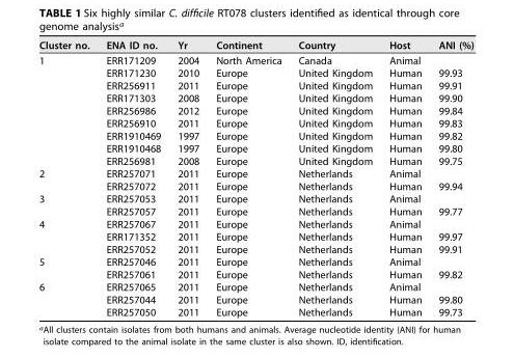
<table><thead><tr><td>Cluster no.</td><td>ENA ID no.</td><td>Yr</td><td>Continent</td><td>Country</td><td>Host</td><td>ANI (%)</td></tr></thead><tbody><tr><td rowspan="9">1</td><td>ERR171209</td><td>2004</td><td>North America</td><td>Canada</td><td>Animal</td><td></td></tr><tr><td>ERR171230</td><td>2010</td><td>Europe</td><td>United Kingdom</td><td>Human</td><td>99.93</td></tr><tr><td>ERR256911</td><td>2011</td><td>Europe</td><td>United Kingdom</td><td>Human</td><td>99.91</td></tr><tr><td>ERR171303</td><td>2008</td><td>Europe</td><td>United Kingdom</td><td>Human</td><td>99.90</td></tr><tr><td>ERR256986</td><td>2012</td><td>Europe</td><td>United Kingdom</td><td>Human</td><td>99.84</td></tr><tr><td>ERR256910</td><td>2011</td><td>Europe</td><td>United Kingdom</td><td>Human</td><td>99.83</td></tr><tr><td>ERR1910469</td><td>1997</td><td>Europe</td><td>United Kingdom</td><td>Human</td><td>99.82</td></tr><tr><td>ERR1910468</td><td>1997</td><td>Europe</td><td>United Kingdom</td><td>Human</td><td>99.80</td></tr><tr><td>ERR256981</td><td>2008</td><td>Europe</td><td>United Kingdom</td><td>Human</td><td>99.75</td></tr><tr><td rowspan="2">2</td><td>ERR257071</td><td>2011</td><td>Europe</td><td>Netherlands</td><td>Animal</td><td></td></tr><tr><td>ERR257072</td><td>2011</td><td>Europe</td><td>Netherlands</td><td>Human</td><td>99.94</td></tr><tr><td rowspan="2">3</td><td>ERR257053</td><td>2011</td><td>Europe</td><td>Netherlands</td><td>Animal</td><td></td></tr><tr><td>ERR257057</td><td>2011</td><td>Europe</td><td>Netherlands</td><td>Human</td><td>99.77</td></tr><tr><td rowspan="3">4</td><td>ERR257067</td><td>2011</td><td>Europe</td><td>Netherlands</td><td>Animal</td><td></td></tr><tr><td>ERR171352</td><td>2011</td><td>Europe</td><td>Netherlands</td><td>Human</td><td>99.97</td></tr><tr><td>ERR257052</td><td>2011</td><td>Europe</td><td>Netherlands</td><td>Human</td><td>99.91</td></tr><tr><td rowspan="2">5</td><td>ERR257046</td><td>2011</td><td>Europe</td><td>Netherlands</td><td>Animal</td><td></td></tr><tr><td>ERR257061</td><td>2011</td><td>Europe</td><td>Netherlands</td><td>Human</td><td>99.82</td></tr><tr><td rowspan="3">6</td><td>ERR257065</td><td>2011</td><td>Europe</td><td>Netherlands</td><td>Animal</td><td></td></tr><tr><td>ERR257044</td><td>2011</td><td>Europe</td><td>Netherlands</td><td>Human</td><td>99.80</td></tr><tr><td>ERR257050</td><td>2011</td><td>Europe</td><td>Netherlands</td><td>Human</td><td>99.73</td></tr></tbody></table>